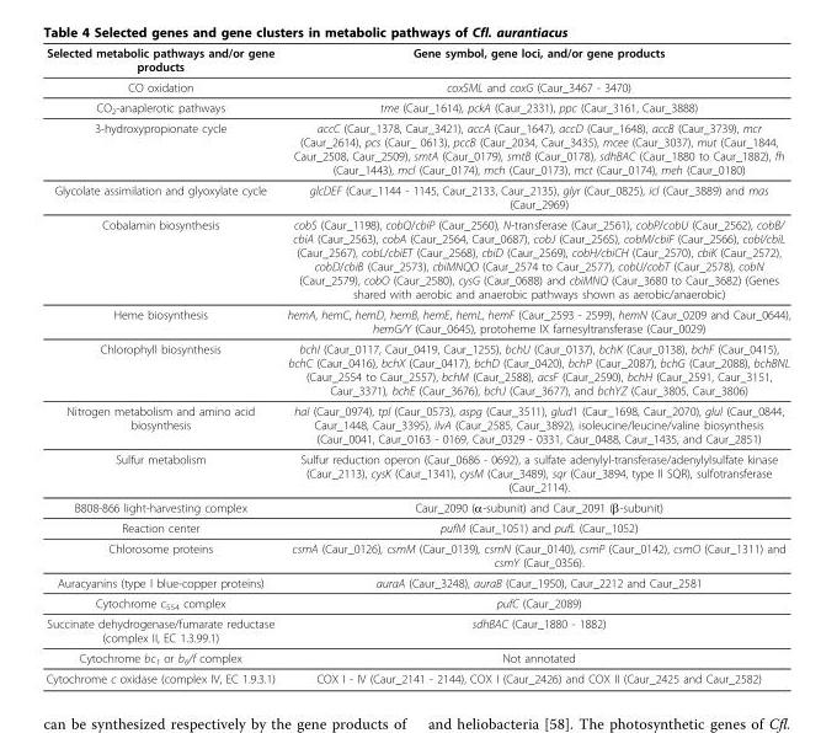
<table><thead><tr><td>Selected metabolic pathways and/or gene products</td><td>Gene symbol, gene loci, and/or gene products</td></tr></thead><tbody><tr><td>CO oxidation</td><td>coxSML and coxG (Caur_3467 - 3470)</td></tr><tr><td>CO<sub>2</sub>-anaplerotic pathways</td><td>tme (Caur_1614), pckA (Caur_2331), ppc (Caur_3161, Caur_3888)</td></tr><tr><td>3-hydroxypropionate cycle</td><td>accC (Caur_1378, Caur_3421), accA (Caur_1647), accD (Caur_1648), accB (Caur_3739), mcr (Caur_2614), pcs (Caur_ 0613), pccB (Caur_2034, Caur_3435), mcee (Caur_3037), mut (Caur_1844, Caur_2508, Caur_2509), smtA (Caur_0179), smtB (Caur_0178), sdhBAC (Caur_1880 to Caur_1882), fh (Caur_1443), mcl (Caur_0174), mch (Caur_0173), mct (Caur_0174), meh (Caur_0180)</td></tr><tr><td>Glycolate assimilation and glyoxylate cycle</td><td>glcDEF (Caur_1144 - 1145, Caur_2133, Caur_2135), glyr (Caur_0825), icl (Caur_3889) and mas (Caur_2969)</td></tr><tr><td>Cobalamin biosynthesis</td><td>cobS (Caur_1198), cobQ/cbiP (Caur_2560), N-transferase (Caur_2561), cobP/cobU (Caur_2562), cobB/ cbiA (Caur_2563), cobA (Caur_2564, Caur_0687), cobJ (Caur_2565), cobM/cbiF (Caur_2566), cobI/cbiL (Caur_2567), cobL/cbiET (Caur_2568), cbiD (Caur_2569), cobH/cbiCH (Caur_2570), cbiK (Caur_2572), cobD/cbiB (Caur_2573), cbiMNQO (Caur_2574 to Caur_2577), cobU/cobT (Caur_2578), cobN (Caur_2579), cobO (Caur_2580), cysG (Caur_0688) and cbiMNQ (Caur_3680 to Caur_3682) (Genes shared with aerobic and anaerobic pathways shown as aerobic/anaerobic)</td></tr><tr><td>Heme biosynthesis</td><td>hemA, hemC, hemD, hemB, hemE, hemL, hemF (Caur_2593 - 2599), hemN (Caur_0209 and Caur_0644), hemG/Y (Caur_0645), protoheme IX farnesyltransferase (Caur_0029)</td></tr><tr><td>Chlorophyll biosynthesis</td><td>bchI (Caur_0117, Caur_0419, Caur_1255), bchU (Caur_0137), bchK (Caur_0138), bchF (Caur_0415), bchC (Caur_0416), bchX (Caur_0417), bchD (Caur_0420), bchP (Caur_2087), bchG (Caur_2088), bchBNL (Caur_2554 to Caur_2557), bchM (Caur_2588), acsF (Caur_2590), bchH (Caur_2591, Caur_3151, Caur_3371), bchE (Caur_3676), bchJ (Caur_3677), and bchYZ (Caur_3805, Caur_3806)</td></tr><tr><td>Nitrogen metabolism and amino acid biosynthesis</td><td>hal (Caur_0974), tpl (Caur_0573), aspg (Caur_3511), glud1 (Caur_1698, Caur_2070), glul (Caur_0844, Caur_1448, Caur_3395), ilvA (Caur_2585, Caur_3892), isoleucine/leucine/valine biosynthesis (Caur_0041, Caur_0163 - 0169, Caur_0329 - 0331, Caur_0488, Caur_1435, and Caur_2851)</td></tr><tr><td>Sulfur metabolism</td><td>Sulfur reduction operon (Caur_0686 - 0692), a sulfate adenylyl-transferase/adenylylsulfate kinase (Caur_2113), cysK (Caur_1341), cysM (Caur_3489), sqr (Caur_3894, type II SQR), sulfotransferase (Caur_2114).</td></tr><tr><td>B808-866 light-harvesting complex</td><td>Caur_2090 (α-subunit) and Caur_2091 (β-subunit)</td></tr><tr><td>Reaction center</td><td>pufM (Caur_1051) and pufL (Caur_1052)</td></tr><tr><td>Chlorosome proteins</td><td>csmA (Caur_0126), csmM (Caur_0139), csmN (Caur_0140), csmP (Caur_0142), csmO (Caur_1311) and csmY (Caur_0356).</td></tr><tr><td>Auracyanins (type I blue-copper proteins)</td><td>auraA (Caur_3248), auraB (Caur_1950), Caur_2212 and Caur_2581</td></tr><tr><td>Cytochrome c<sub>554</sub> complex</td><td>pufC (Caur_2089)</td></tr><tr><td>Succinate dehydrogenase/fumarate reductase (complex II, EC 1.3.99.1)</td><td>sdhBAC (Caur_1880 - 1882)</td></tr><tr><td>Cytochrome bc<sub>1</sub> or b<sub>6</sub>/f complex</td><td>Not annotated</td></tr><tr><td>Cytochrome c oxidase (complex IV, EC 1.9.3.1)</td><td>COX I - IV (Caur_2141 - 2144), COX I (Caur_2426) and COX II (Caur_2425 and Caur_2582)</td></tr></tbody></table>